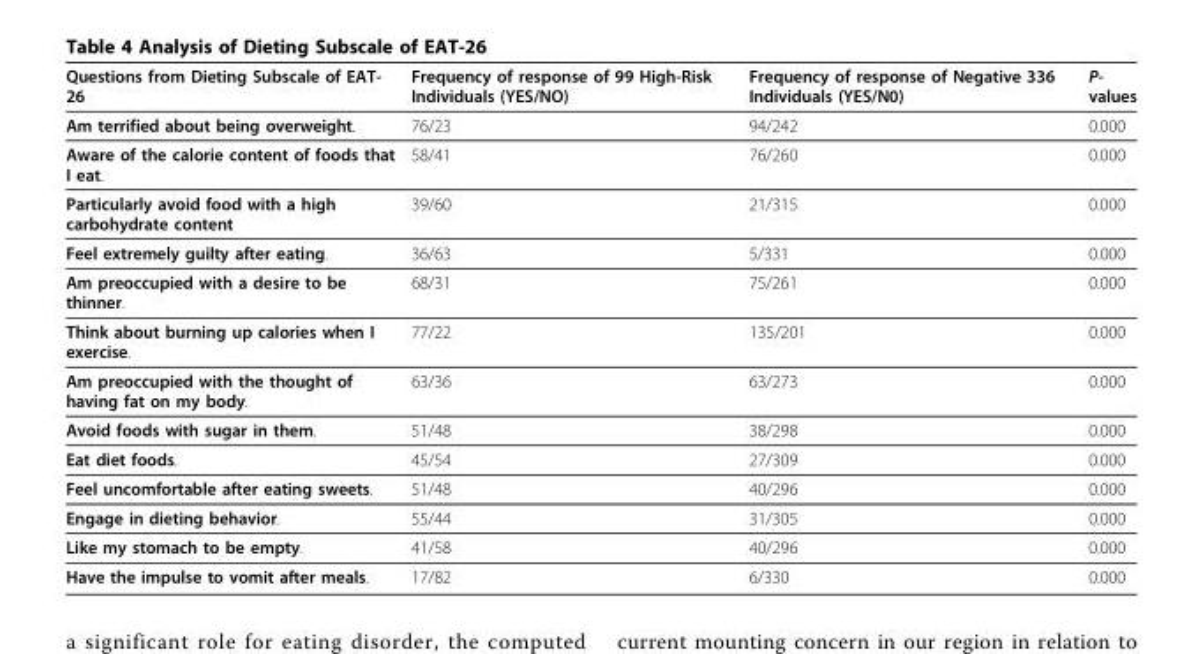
<table><thead><tr><td>Questions from Dieting Subscale of EAT- 26</td><td>Frequency of response of 99 High-Risk Individuals (YES/NO)</td><td>Frequency of response of Negative 336 Individuals (YES/N0)</td><td>P- values</td></tr></thead><tbody><tr><td>Am terrified about being overweight.</td><td>76/23</td><td>94/242</td><td>0.000</td></tr><tr><td>Aware of the calorie content of foods that I eat.</td><td>58/41</td><td>76/260</td><td>0.000</td></tr><tr><td>Particularly avoid food with a high carbohydrate content</td><td>39/60</td><td>21/315</td><td>0.000</td></tr><tr><td>Feel extremely guilty after eating.</td><td>36/63</td><td>5/331</td><td>0.000</td></tr><tr><td>Am preoccupied with a desire to be thinner.</td><td>68/31</td><td>75/261</td><td>0.000</td></tr><tr><td>Think about burning up calories when I exercise.</td><td>77/22</td><td>135/201</td><td>0.000</td></tr><tr><td>Am preoccupied with the thought of having fat on my body.</td><td>63/36</td><td>63/273</td><td>0.000</td></tr><tr><td>Avoid foods with sugar in them.</td><td>51/48</td><td>38/298</td><td>0.000</td></tr><tr><td>Eat diet foods.</td><td>45/54</td><td>27/309</td><td>0.000</td></tr><tr><td>Feel uncomfortable after eating sweets.</td><td>51/48</td><td>40/296</td><td>0.000</td></tr><tr><td>Engage in dieting behavior.</td><td>55/44</td><td>31/305</td><td>0.000</td></tr><tr><td>Like my stomach to be empty.</td><td>41/58</td><td>40/296</td><td>0.000</td></tr><tr><td>Have the impulse to vomit after meals.</td><td>17/82</td><td>6/330</td><td>0.000</td></tr></tbody></table>